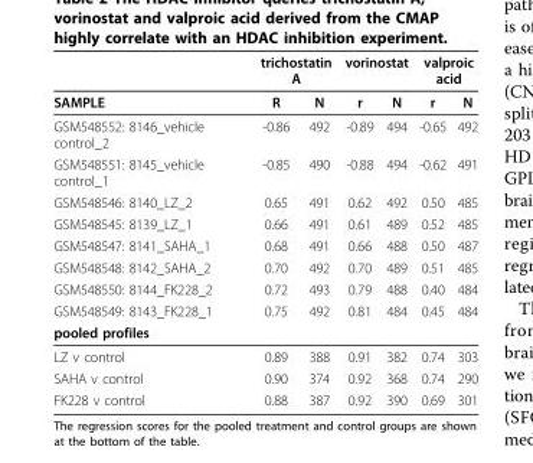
<table><thead><tr><td rowspan="2">SAMPLE</td><td colspan="2">trichostatin A</td><td colspan="2">vorinostat</td><td colspan="2">valproic acid</td></tr><tr><td>R</td><td>N</td><td>r</td><td>N</td><td>r</td><td>N</td></tr></thead><tbody><tr><td>GSM548552: 8146_vehicle control_2</td><td>-0.86</td><td>492</td><td>-0.89</td><td>494</td><td>-0.65</td><td>492</td></tr><tr><td>GSM548551: 8145_vehicle control_1</td><td>-0.85</td><td>490</td><td>-0.88</td><td>494</td><td>-0.62</td><td>491</td></tr><tr><td>GSM548546: 8140_LZ_2</td><td>0.65</td><td>491</td><td>0.62</td><td>492</td><td>0.50</td><td>485</td></tr><tr><td>GSM548545: 8139_LZ_1</td><td>0.66</td><td>491</td><td>0.61</td><td>489</td><td>0.52</td><td>485</td></tr><tr><td>GSM548547: 8141_SAHA_1</td><td>0.68</td><td>491</td><td>0.66</td><td>488</td><td>0.50</td><td>487</td></tr><tr><td>GSM548548: 8142_SAHA_2</td><td>0.70</td><td>492</td><td>0.70</td><td>489</td><td>0.51</td><td>485</td></tr><tr><td>GSM548550: 8144_FK228_2</td><td>0.72</td><td>493</td><td>0.79</td><td>488</td><td>0.40</td><td>484</td></tr><tr><td>GSM548549: 8143_FK228_1</td><td>0.75</td><td>492</td><td>0.81</td><td>484</td><td>0.45</td><td>484</td></tr><tr><td colspan="7">pooled profiles</td></tr><tr><td>LZ v control</td><td>0.89</td><td>388</td><td>0.91</td><td>382</td><td>0.74</td><td>303</td></tr><tr><td>SAHA v control</td><td>0.90</td><td>374</td><td>0.92</td><td>368</td><td>0.74</td><td>290</td></tr><tr><td>FK228 v control</td><td>0.88</td><td>387</td><td>0.92</td><td>390</td><td>0.69</td><td>301</td></tr></tbody></table>